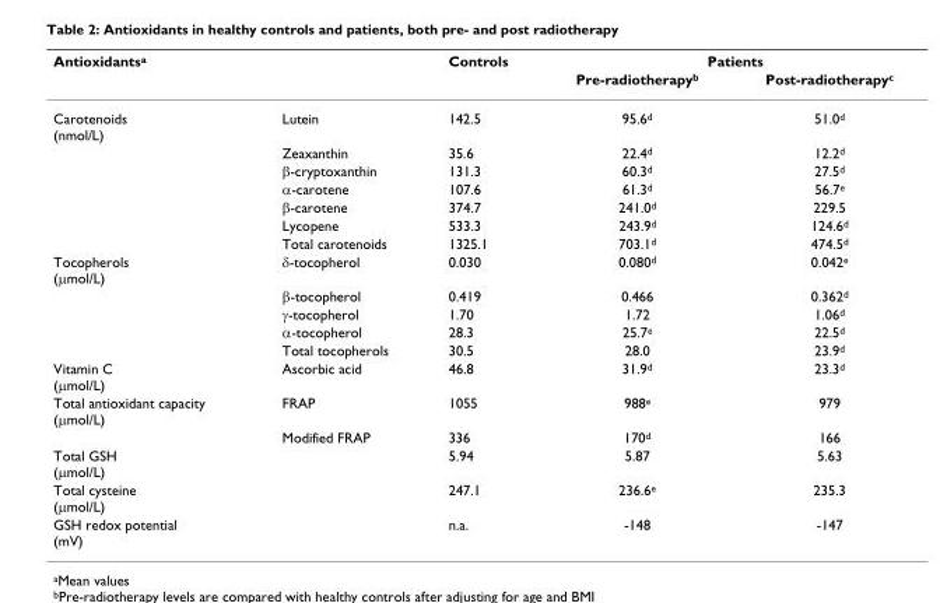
<table><thead><tr><td rowspan="2">Antioxidants<sup>a</sup></td><td rowspan="2"></td><td rowspan="2">Controls</td><td colspan="2">Patients</td></tr><tr><td>Pre-radiotherapy<sup>b</sup></td><td>Post-radiotherapy<sup>c</sup></td></tr></thead><tbody><tr><td rowspan="7">Carotenoids (nmol/L)</td><td>Lutein</td><td>142.5</td><td>95.6<sup>d</sup></td><td>51.0<sup>d</sup></td></tr><tr><td>Zeaxanthin</td><td>35.6</td><td>22.4<sup>d</sup></td><td>12.2<sup>d</sup></td></tr><tr><td>β-cryptoxanthin</td><td>131.3</td><td>60.3<sup>d</sup></td><td>27.5<sup>d</sup></td></tr><tr><td>α-carotene</td><td>107.6</td><td>61.3<sup>d</sup></td><td>56.7<sup>e</sup></td></tr><tr><td>β-carotene</td><td>374.7</td><td>241.0<sup>d</sup></td><td>229.5</td></tr><tr><td>Lycopene</td><td>533.3</td><td>243.9<sup>d</sup></td><td>124.6<sup>d</sup></td></tr><tr><td>Total carotenoids</td><td>1325.1</td><td>703.1<sup>d</sup></td><td>474.5<sup>d</sup></td></tr><tr><td rowspan="5">Tocopherols (μmol/L)</td><td>δ-tocopherol</td><td>0.030</td><td>0.080<sup>d</sup></td><td>0.042<sup>e</sup></td></tr><tr><td>β-tocopherol</td><td>0.419</td><td>0.466</td><td>0.362<sup>d</sup></td></tr><tr><td>γ-tocopherol</td><td>1.70</td><td>1.72</td><td>1.06<sup>d</sup></td></tr><tr><td>α-tocopherol</td><td>28.3</td><td>25.7<sup>e</sup></td><td>22.5<sup>d</sup></td></tr><tr><td>Total tocopherols</td><td>30.5</td><td>28.0</td><td>23.9<sup>d</sup></td></tr><tr><td>Vitamin C (μmol/L)</td><td>Ascorbic acid</td><td>46.8</td><td>31.9<sup>d</sup></td><td>23.3<sup>d</sup></td></tr><tr><td rowspan="2">Total antioxidant capacity (μmol/L)</td><td>FRAP</td><td>1055</td><td>988<sup>e</sup></td><td>979</td></tr><tr><td>Modified FRAP</td><td>336</td><td>170<sup>d</sup></td><td>166</td></tr><tr><td>Total GSH (μmol/L)</td><td></td><td>5.94</td><td>5.87</td><td>5.63</td></tr><tr><td>Total cysteine (μmol/L)</td><td></td><td>247.1</td><td>236.6<sup>e</sup></td><td>235.3</td></tr><tr><td>GSH redox potential (mV)</td><td></td><td>n.a.</td><td>-148</td><td>-147</td></tr></tbody></table>